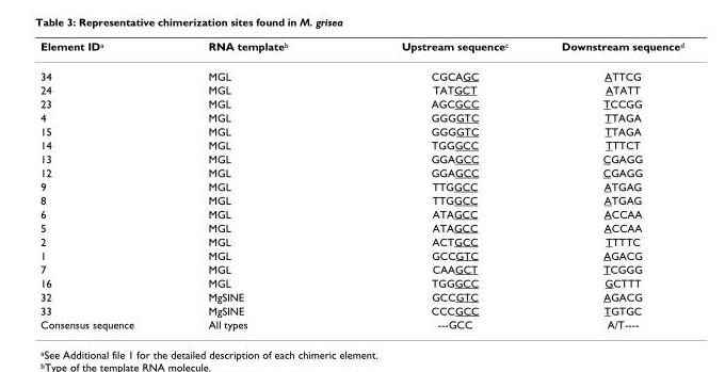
<table><thead><tr><td>Element ID<sup>a</sup></td><td>RNA template<sup>b</sup></td><td>Upstream sequence<sup>c</sup></td><td>Downstream sequence<sup>d</sup></td></tr></thead><tbody><tr><td>34</td><td>MGL</td><td>CGCAGC</td><td>ATTCG</td></tr><tr><td>24</td><td>MGL</td><td>TATGCT</td><td>ATATT</td></tr><tr><td>23</td><td>MGL</td><td>AGCGCC</td><td>TCCGG</td></tr><tr><td>4</td><td>MGL</td><td>GGGGTC</td><td>TTAGA</td></tr><tr><td>15</td><td>MGL</td><td>GGGGTC</td><td>TTAGA</td></tr><tr><td>14</td><td>MGL</td><td>TGGGCC</td><td>TTTCT</td></tr><tr><td>13</td><td>MGL</td><td>GGAGCC</td><td>CGAGG</td></tr><tr><td>12</td><td>MGL</td><td>GGAGCC</td><td>CGAGG</td></tr><tr><td>9</td><td>MGL</td><td>TTGGCC</td><td>ATGAG</td></tr><tr><td>8</td><td>MGL</td><td>TTGGCC</td><td>ATGAG</td></tr><tr><td>6</td><td>MGL</td><td>ATAGCC</td><td>ACCAA</td></tr><tr><td>5</td><td>MGL</td><td>ATAGCC</td><td>ACCAA</td></tr><tr><td>2</td><td>MGL</td><td>ACTGCC</td><td>TTTTC</td></tr><tr><td>1</td><td>MGL</td><td>GCCGTC</td><td>AGACG</td></tr><tr><td>7</td><td>MGL</td><td>CAAGCT</td><td>TCGGG</td></tr><tr><td>16</td><td>MGL</td><td>TGGGCC</td><td>GCTTT</td></tr><tr><td>32</td><td>MgSINE</td><td>GCCGTC</td><td>AGACG</td></tr><tr><td>33</td><td>MgSINE</td><td>CCCGCC</td><td>TGTGC</td></tr><tr><td>Consensus sequence</td><td>All types</td><td>---GCC</td><td>A/T----</td></tr></tbody></table>